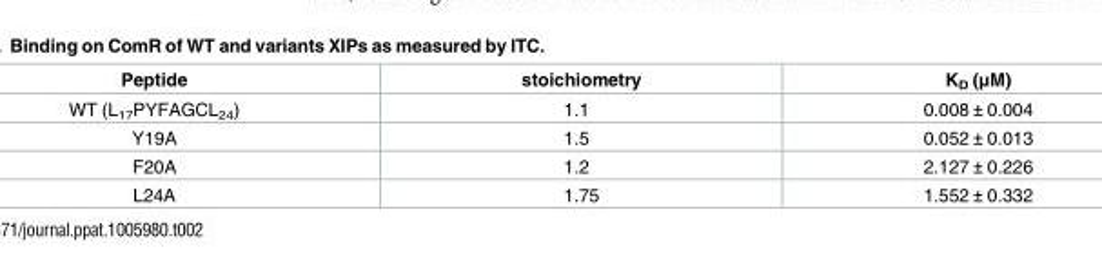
<table><thead><tr><td>Peptide</td><td>stoichiometry</td><td>K<sub>D</sub> (μM)</td></tr></thead><tbody><tr><td>WT (L<sub>17</sub>PYFAGCL<sub>24</sub>)</td><td>1.1</td><td>0.008 ± 0.004</td></tr><tr><td>Y19A</td><td>1.5</td><td>0.052 ± 0.013</td></tr><tr><td>F20A</td><td>1.2</td><td>2.127 ± 0.226</td></tr><tr><td>L24A</td><td>1.75</td><td>1.552 ± 0.332</td></tr></tbody></table>